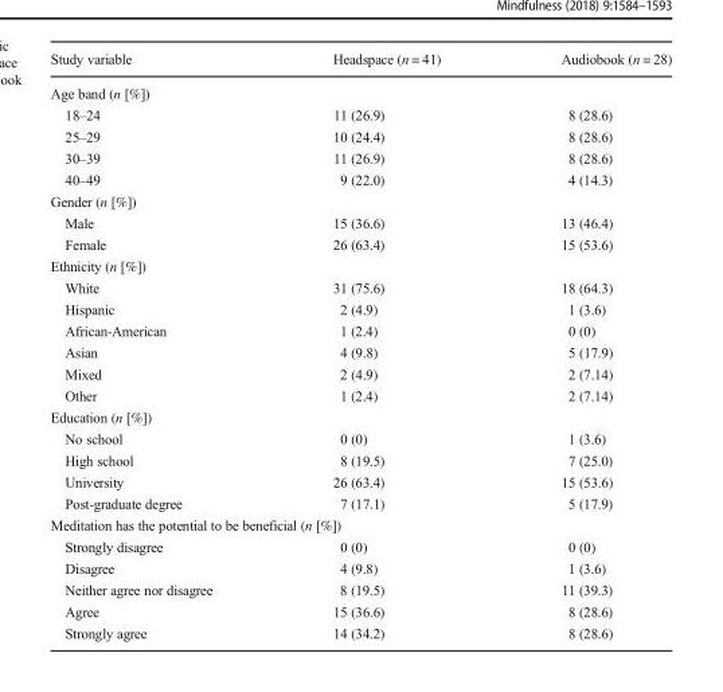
<table><thead><tr><td>Study variable</td><td>Headspace (n = 41)</td><td>Audiobook (n = 28)</td></tr></thead><tbody><tr><td colspan="3">Age band (n [%])</td></tr><tr><td>18–24</td><td>11 (26.9)</td><td>8 (28.6)</td></tr><tr><td>25–29</td><td>10 (24.4)</td><td>8 (28.6)</td></tr><tr><td>30–39</td><td>11 (26.9)</td><td>8 (28.6)</td></tr><tr><td>40–49</td><td>9 (22.0)</td><td>4 (14.3)</td></tr><tr><td colspan="3">Gender (n [%])</td></tr><tr><td>Male</td><td>15 (36.6)</td><td>13 (46.4)</td></tr><tr><td>Female</td><td>26 (63.4)</td><td>15 (53.6)</td></tr><tr><td colspan="3">Ethnicity (n [%])</td></tr><tr><td>White</td><td>31 (75.6)</td><td>18 (64.3)</td></tr><tr><td>Hispanic</td><td>2 (4.9)</td><td>1 (3.6)</td></tr><tr><td>African-American</td><td>1 (2.4)</td><td>0 (0)</td></tr><tr><td>Asian</td><td>4 (9.8)</td><td>5 (17.9)</td></tr><tr><td>Mixed</td><td>2 (4.9)</td><td>2 (7.14)</td></tr><tr><td>Other</td><td>1 (2.4)</td><td>2 (7.14)</td></tr><tr><td colspan="3">Education (n [%])</td></tr><tr><td>No school</td><td>0 (0)</td><td>1 (3.6)</td></tr><tr><td>High school</td><td>8 (19.5)</td><td>7 (25.0)</td></tr><tr><td>University</td><td>26 (63.4)</td><td>15 (53.6)</td></tr><tr><td>Post-graduate degree</td><td>7 (17.1)</td><td>5 (17.9)</td></tr><tr><td colspan="3">Meditation has the potential to be beneficial (n [%])</td></tr><tr><td>Strongly disagree</td><td>0 (0)</td><td>0 (0)</td></tr><tr><td>Disagree</td><td>4 (9.8)</td><td>1 (3.6)</td></tr><tr><td>Neither agree nor disagree</td><td>8 (19.5)</td><td>11 (39.3)</td></tr><tr><td>Agree</td><td>15 (36.6)</td><td>8 (28.6)</td></tr><tr><td>Strongly agree</td><td>14 (34.2)</td><td>8 (28.6)</td></tr></tbody></table>